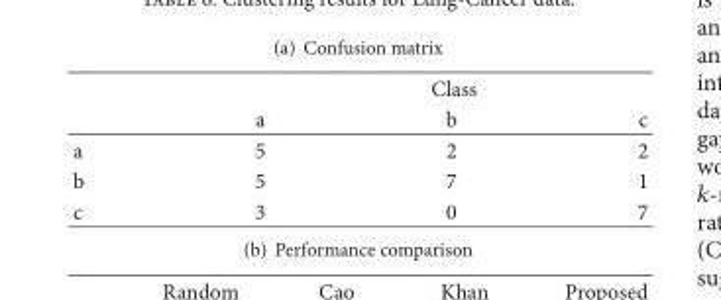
<table><thead><tr><td rowspan="2"></td><td colspan="3">Class</td></tr><tr><td>a</td><td>b</td><td>c</td></tr></thead><tbody><tr><td>a</td><td>5</td><td>2</td><td>2</td></tr><tr><td>b</td><td>5</td><td>7</td><td>1</td></tr><tr><td>c</td><td>3</td><td>0</td><td>7</td></tr></tbody></table>